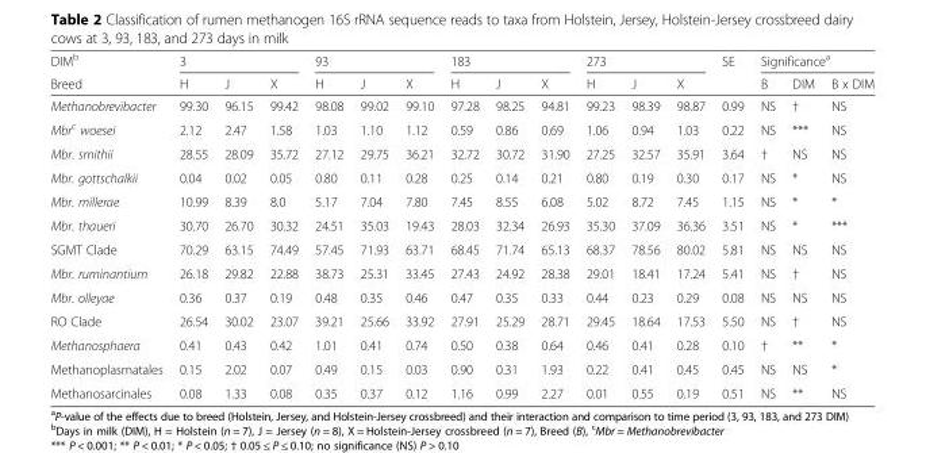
<table><thead><tr><td rowspan="2">DIM<sup>b</sup> Breed</td><td colspan="3">3</td><td colspan="3">93</td><td colspan="3">183</td><td colspan="3">273</td><td rowspan="2">SE</td><td colspan="3">Significance<sup>a</sup></td></tr><tr><td>H</td><td>J</td><td>X</td><td>H</td><td>J</td><td>X</td><td>H</td><td>J</td><td>X</td><td>H</td><td>J</td><td>X</td><td>B</td><td>DIM</td><td>B x DIM</td></tr></thead><tbody><tr><td>Methanobrevibacter</td><td>99.30</td><td>96.15</td><td>99.42</td><td>98.08</td><td>99.02</td><td>99.10</td><td>97.28</td><td>98.25</td><td>94.81</td><td>99.23</td><td>98.39</td><td>98.87</td><td>0.99</td><td>NS</td><td>†</td><td>NS</td></tr><tr><td>Mbr<sup>c</sup> woesei</td><td>2.12</td><td>2.47</td><td>1.58</td><td>1.03</td><td>1.10</td><td>1.12</td><td>0.59</td><td>0.86</td><td>0.69</td><td>1.06</td><td>0.94</td><td>1.03</td><td>0.22</td><td>NS</td><td>***</td><td>NS</td></tr><tr><td>Mbr. smithii</td><td>28.55</td><td>28.09</td><td>35.72</td><td>27.12</td><td>29.75</td><td>36.21</td><td>32.72</td><td>30.72</td><td>31.90</td><td>27.25</td><td>32.57</td><td>35.91</td><td>3.64</td><td>†</td><td>NS</td><td>NS</td></tr><tr><td>Mbr. gottschalkii</td><td>0.04</td><td>0.02</td><td>0.05</td><td>0.80</td><td>0.11</td><td>0.28</td><td>0.25</td><td>0.14</td><td>0.21</td><td>0.80</td><td>0.19</td><td>0.30</td><td>0.17</td><td>NS</td><td>*</td><td>NS</td></tr><tr><td>Mbr. millerae</td><td>10.99</td><td>8.39</td><td>8.0</td><td>5.17</td><td>7.04</td><td>7.80</td><td>7.45</td><td>8.55</td><td>6.08</td><td>5.02</td><td>8.72</td><td>7.45</td><td>1.15</td><td>NS</td><td>*</td><td>*</td></tr><tr><td>Mbr. thaueri</td><td>30.70</td><td>26.70</td><td>30.32</td><td>24.51</td><td>35.03</td><td>19.43</td><td>28.03</td><td>32.34</td><td>26.93</td><td>35.30</td><td>37.09</td><td>36.36</td><td>3.51</td><td>NS</td><td>*</td><td>***</td></tr><tr><td>SGMT Clade</td><td>70.29</td><td>63.15</td><td>74.49</td><td>57.45</td><td>71.93</td><td>63.71</td><td>68.45</td><td>71.74</td><td>65.13</td><td>68.37</td><td>78.56</td><td>80.02</td><td>5.81</td><td>NS</td><td>NS</td><td>NS</td></tr><tr><td>Mbr. ruminantium</td><td>26.18</td><td>29.82</td><td>22.88</td><td>38.73</td><td>25.31</td><td>33.45</td><td>27.43</td><td>24.92</td><td>28.38</td><td>29.01</td><td>18.41</td><td>17.24</td><td>5.41</td><td>NS</td><td>†</td><td>NS</td></tr><tr><td>Mbr. olleyae</td><td>0.36</td><td>0.37</td><td>0.19</td><td>0.48</td><td>0.35</td><td>0.46</td><td>0.47</td><td>0.35</td><td>0.33</td><td>0.44</td><td>0.23</td><td>0.29</td><td>0.08</td><td>NS</td><td>NS</td><td>NS</td></tr><tr><td>RO Clade</td><td>26.54</td><td>30.02</td><td>23.07</td><td>39.21</td><td>25.66</td><td>33.92</td><td>27.91</td><td>25.29</td><td>28.71</td><td>29.45</td><td>18.64</td><td>17.53</td><td>5.50</td><td>NS</td><td>†</td><td>NS</td></tr><tr><td>Methanosphaera</td><td>0.41</td><td>0.43</td><td>0.42</td><td>1.01</td><td>0.41</td><td>0.74</td><td>0.50</td><td>0.38</td><td>0.64</td><td>0.46</td><td>0.41</td><td>0.28</td><td>0.10</td><td>†</td><td>**</td><td>*</td></tr><tr><td>Methanoplasmatales</td><td>0.15</td><td>2.02</td><td>0.07</td><td>0.49</td><td>0.15</td><td>0.03</td><td>0.90</td><td>0.31</td><td>1.93</td><td>0.22</td><td>0.41</td><td>0.45</td><td>0.45</td><td>NS</td><td>NS</td><td>*</td></tr><tr><td>Methanosarcinales</td><td>0.08</td><td>1.33</td><td>0.08</td><td>0.35</td><td>0.37</td><td>0.12</td><td>1.16</td><td>0.99</td><td>2.27</td><td>0.01</td><td>0.55</td><td>0.19</td><td>0.51</td><td>NS</td><td>**</td><td>NS</td></tr></tbody></table>